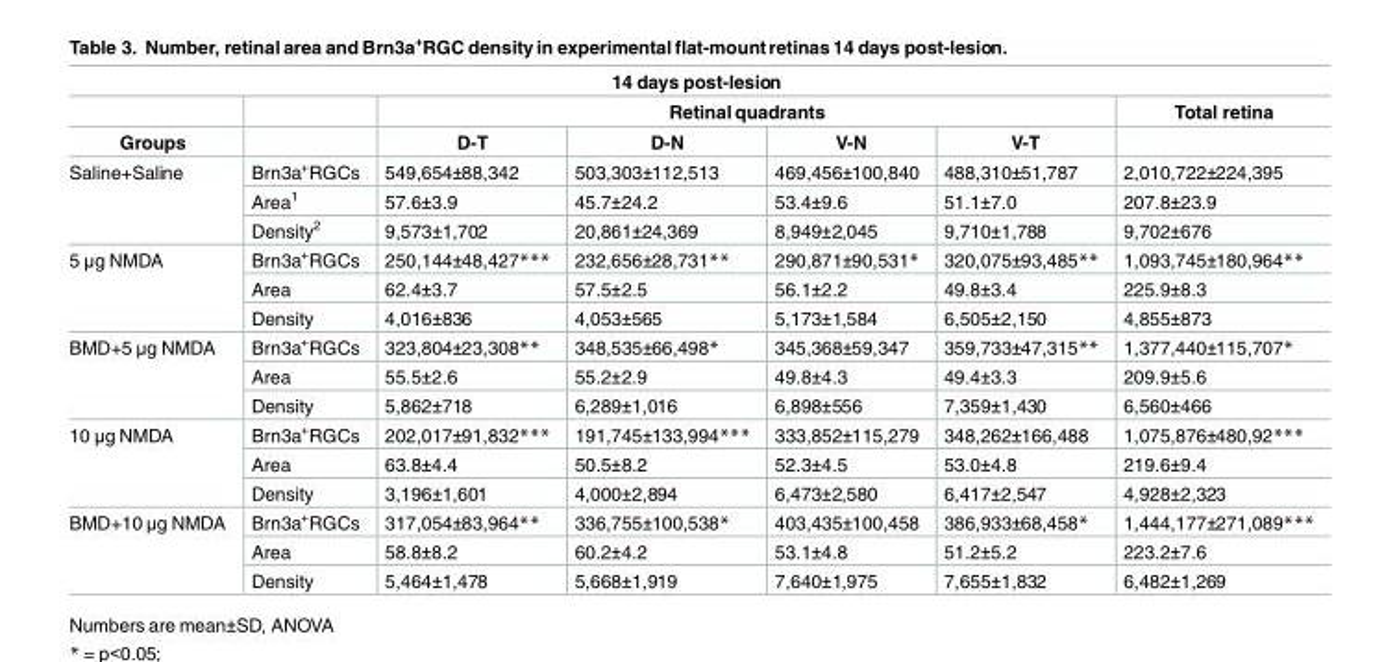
<table><thead><tr><td colspan="7">14 days post-lesion</td></tr><tr><td rowspan="2">Groups</td><td rowspan="2"></td><td colspan="4">Retinal quadrants</td><td rowspan="2">Total retina</td></tr><tr><td>D-T</td><td>D-N</td><td>V-N</td><td>V-T</td></tr></thead><tbody><tr><td rowspan="3">Saline+Saline</td><td>Brn3a<sup>+</sup>RGCs</td><td>549,654±88,342</td><td>503,303±112,513</td><td>469,456±100,840</td><td>488,310±51,787</td><td>2,010,722±224,395</td></tr><tr><td>Area<sup>1</sup></td><td>57.6±3.9</td><td>45.7±24.2</td><td>53.4±9.6</td><td>51.1±7.0</td><td>207.8±23.9</td></tr><tr><td>Density<sup>2</sup></td><td>9,573±1,702</td><td>20,861±24,369</td><td>8,949±2,045</td><td>9,710±1,788</td><td>9,702±676</td></tr><tr><td rowspan="3">5 μg NMDA</td><td>Brn3a<sup>+</sup>RGCs</td><td>250,144±48,427***</td><td>232,656±28,731**</td><td>290,871±90,531*</td><td>320,075±93,485**</td><td>1,093,745±180,964**</td></tr><tr><td>Area</td><td>62.4±3.7</td><td>57.5±2.5</td><td>56.1±2.2</td><td>49.8±3.4</td><td>225.9±8.3</td></tr><tr><td>Density</td><td>4,016±836</td><td>4,053±565</td><td>5,173±1,584</td><td>6,505±2,150</td><td>4,855±873</td></tr><tr><td rowspan="3">BMD+5 μg NMDA</td><td>Brn3a<sup>+</sup>RGCs</td><td>323,804±23,308**</td><td>348,535±66,498*</td><td>345,368±59,347</td><td>359,733±47,315**</td><td>1,377,440±115,707*</td></tr><tr><td>Area</td><td>55.5±2.6</td><td>55.2±2.9</td><td>49.8±4.3</td><td>49.4±3.3</td><td>209.9±5.6</td></tr><tr><td>Density</td><td>5,862±718</td><td>6,289±1,016</td><td>6,898±556</td><td>7,359±1,430</td><td>6,560±466</td></tr><tr><td rowspan="3">10 μg NMDA</td><td>Brn3a<sup>+</sup>RGCs</td><td>202,017±91,832***</td><td>191,745±133,994***</td><td>333,852±115,279</td><td>348,262±166,488</td><td>1,075,876±480,92***</td></tr><tr><td>Area</td><td>63.8±4.4</td><td>50.5±8.2</td><td>52.3±4.5</td><td>53.0±4.8</td><td>219.6±9.4</td></tr><tr><td>Density</td><td>3,196±1,601</td><td>4,000±2,894</td><td>6,473±2,580</td><td>6,417±2,547</td><td>4,928±2,323</td></tr><tr><td rowspan="3">BMD+10 μg NMDA</td><td>Brn3a<sup>+</sup>RGCs</td><td>317,054±83,964**</td><td>336,755±100,538*</td><td>403,435±100,458</td><td>386,933±68,458*</td><td>1,444,177±271,089***</td></tr><tr><td>Area</td><td>58.8±8.2</td><td>60.2±4.2</td><td>53.1±4.8</td><td>51.2±5.2</td><td>223.2±7.6</td></tr><tr><td>Density</td><td>5,464±1,478</td><td>5,668±1,919</td><td>7,640±1,975</td><td>7,655±1,832</td><td>6,482±1,269</td></tr></tbody></table>